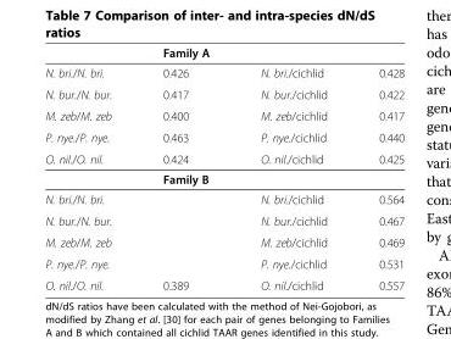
<table><thead><tr><td></td><td>Family A</td><td></td><td></td></tr></thead><tbody><tr><td>N. bri./N. bri.</td><td>0.426</td><td>N. bri./cichlid</td><td>0.428</td></tr><tr><td>N. bur./N. bur.</td><td>0.417</td><td>N. bur./cichlid</td><td>0.422</td></tr><tr><td>M. zeb/M. zeb</td><td>0.400</td><td>M. zeb/cichlid</td><td>0.417</td></tr><tr><td>P. nye./P. nye.</td><td>0.463</td><td>P. nye./cichlid</td><td>0.440</td></tr><tr><td rowspan="2">O. nil./O. nil.</td><td>0.424</td><td>O. nil./cichlid</td><td>0.425</td></tr><tr><td>Family B</td><td></td><td></td></tr><tr><td>N. bri./N. bri.</td><td></td><td>N. bri./cichlid</td><td>0.564</td></tr><tr><td>N. bur./N. bur.</td><td></td><td>N. bur./cichlid</td><td>0.467</td></tr><tr><td>M. zeb/M. zeb</td><td></td><td>M. zeb/cichlid</td><td>0.469</td></tr><tr><td>P. nye./P. nye.</td><td></td><td>P. nye./cichlid</td><td>0.531</td></tr><tr><td>O. nil./O. nil.</td><td>0.389</td><td>O. nil./cichlid</td><td>0.557</td></tr></tbody></table>